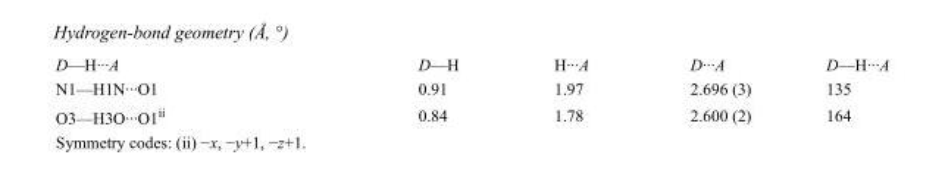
<table><tbody><tr><td>D—H···A</td><td>D—H</td><td>H···A</td><td>D···A</td><td>D—H···A</td></tr><tr><td>N1—H1N···O1</td><td>0.91</td><td>1.97</td><td>2.696 (3)</td><td>135</td></tr><tr><td>O3—H3O···O1<sup>ii</sup></td><td>0.84</td><td>1.78</td><td>2.600 (2)</td><td>164</td></tr></tbody></table>